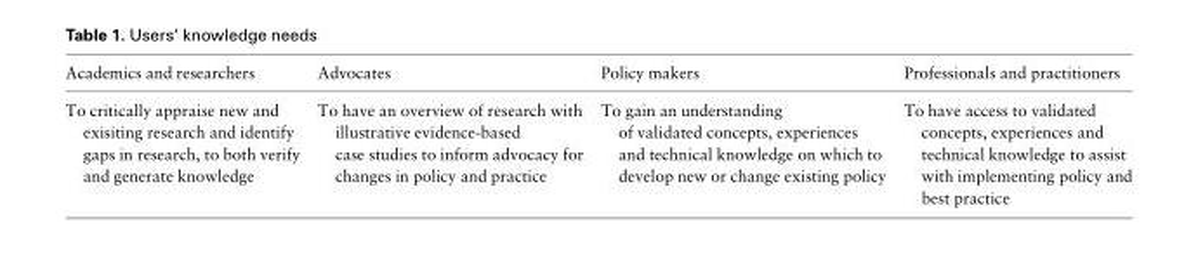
<table><thead><tr><td>Academics and researchers</td><td>Advocates</td><td>Policy makers</td><td>Professionals and practitioners</td></tr></thead><tbody><tr><td>To critically appraise new and exisiting research and identify gaps in research, to both verify and generate knowledge</td><td>To have an overview of research with illustrative evidence-based case studies to inform advocacy for changes in policy and practice</td><td>To gain an understanding of validated concepts, experiences and technical knowledge on which to develop new or change existing policy</td><td>To have access to validated concepts, experiences and technical knowledge to assist with implementing policy and best practice</td></tr></tbody></table>